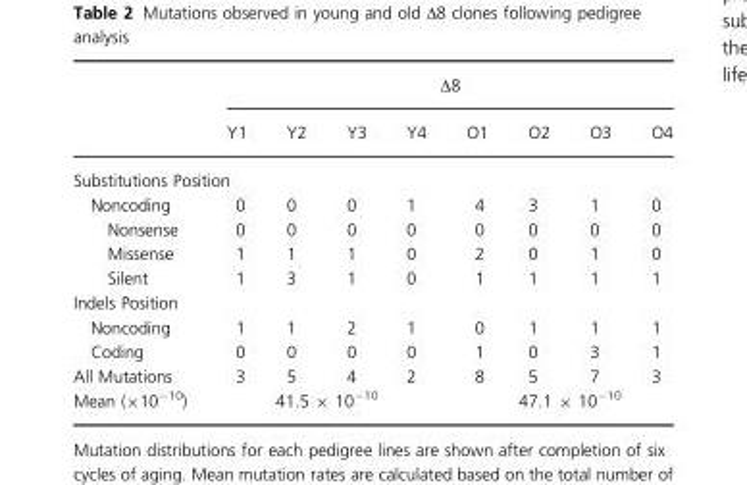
<table><thead><tr><td rowspan="2"></td><td colspan="8">Δ8</td></tr><tr><td>Y1</td><td>Y2</td><td>Y3</td><td>Y4</td><td>O1</td><td>O2</td><td>O3</td><td>O4</td></tr></thead><tbody><tr><td colspan="9">Substitutions Position</td></tr><tr><td>Noncoding</td><td>0</td><td>0</td><td>0</td><td>1</td><td>4</td><td>3</td><td>1</td><td>0</td></tr><tr><td>Nonsense</td><td>0</td><td>0</td><td>0</td><td>0</td><td>0</td><td>0</td><td>0</td><td>0</td></tr><tr><td>Missense</td><td>1</td><td>1</td><td>1</td><td>0</td><td>2</td><td>0</td><td>1</td><td>0</td></tr><tr><td>Silent</td><td>1</td><td>3</td><td>1</td><td>0</td><td>1</td><td>1</td><td>1</td><td>1</td></tr><tr><td colspan="9">Indels Position</td></tr><tr><td>Noncoding</td><td>1</td><td>1</td><td>2</td><td>1</td><td>0</td><td>1</td><td>1</td><td>1</td></tr><tr><td>Coding</td><td>0</td><td>0</td><td>0</td><td>0</td><td>1</td><td>0</td><td>3</td><td>1</td></tr><tr><td>All Mutations</td><td>3</td><td>5</td><td>4</td><td>2</td><td>8</td><td>5</td><td>7</td><td>3</td></tr><tr><td>Mean (×10<sup>−10</sup>)</td><td colspan="4">41.5 × 10<sup>−10</sup></td><td colspan="4">47.1 × 10<sup>−10</sup></td></tr></tbody></table>